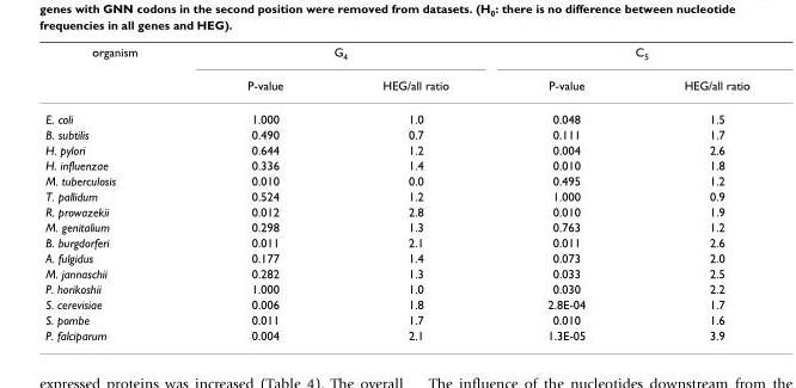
<table><thead><tr><td rowspan="2">organism</td><td colspan="2">G4</td><td colspan="2">C5</td></tr><tr><td>P-value</td><td>HEG/all ratio</td><td>P-value</td><td>HEG/all ratio</td></tr></thead><tbody><tr><td>E. coli</td><td>1.000</td><td>1.0</td><td>0.048</td><td>1.5</td></tr><tr><td>B. subtilis</td><td>0.490</td><td>0.7</td><td>0.111</td><td>1.7</td></tr><tr><td>H. pylori</td><td>0.644</td><td>1.2</td><td>0.004</td><td>2.6</td></tr><tr><td>H. influenzae</td><td>0.336</td><td>1.4</td><td>0.010</td><td>1.8</td></tr><tr><td>M. tuberculosis</td><td>0.010</td><td>0.0</td><td>0.495</td><td>1.2</td></tr><tr><td>T. pallidum</td><td>0.524</td><td>1.2</td><td>1.000</td><td>0.9</td></tr><tr><td>R. prowazekii</td><td>0.012</td><td>2.8</td><td>0.010</td><td>1.9</td></tr><tr><td>M. genitalium</td><td>0.298</td><td>1.3</td><td>0.763</td><td>1.2</td></tr><tr><td>B. burgdorferi</td><td>0.011</td><td>2.1</td><td>0.011</td><td>2.6</td></tr><tr><td>A. fulgidus</td><td>0.177</td><td>1.4</td><td>0.073</td><td>2.0</td></tr><tr><td>M. jannaschii</td><td>0.282</td><td>1.3</td><td>0.033</td><td>2.5</td></tr><tr><td>P. horikoshii</td><td>1.000</td><td>1.0</td><td>0.030</td><td>2.2</td></tr><tr><td>S. cerevisiae</td><td>0.006</td><td>1.8</td><td>2.8E-04</td><td>1.7</td></tr><tr><td>S. pombe</td><td>0.011</td><td>1.7</td><td>0.010</td><td>1.6</td></tr><tr><td>P. falciparum</td><td>0.004</td><td>2.1</td><td>1.3E-05</td><td>3.9</td></tr></tbody></table>